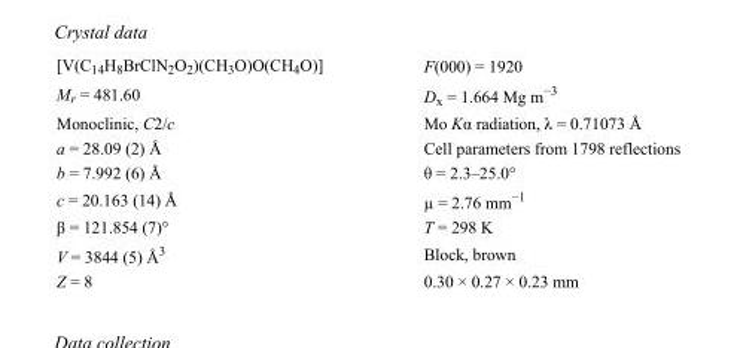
<table><tbody><tr><td>[V(C<sub>14</sub>H<sub>8</sub>BrClN<sub>2</sub>O<sub>2</sub>)(CH<sub>3</sub>O)O(CH<sub>4</sub>O)]</td><td>F(000) = 1920</td></tr><tr><td>M<sub>r</sub> = 481.60</td><td>D<sub>x</sub> = 1.664 Mg m<sup>−3</sup></td></tr><tr><td>Monoclinic, C2/c</td><td>Mo Kα radiation, λ = 0.71073 Å</td></tr><tr><td>a = 28.09 (2) Å</td><td>Cell parameters from 1798 reflections</td></tr><tr><td>b = 7.992 (6) Å</td><td>θ = 2.3–25.0°</td></tr><tr><td>c = 20.163 (14) Å</td><td>µ = 2.76 mm<sup>−1</sup></td></tr><tr><td>β = 121.854 (7)°</td><td>T = 298 K</td></tr><tr><td>V = 3844 (5) Å<sup>3</sup></td><td>Block, brown</td></tr><tr><td>Z = 8</td><td>0.30 × 0.27 × 0.23 mm</td></tr></tbody></table>